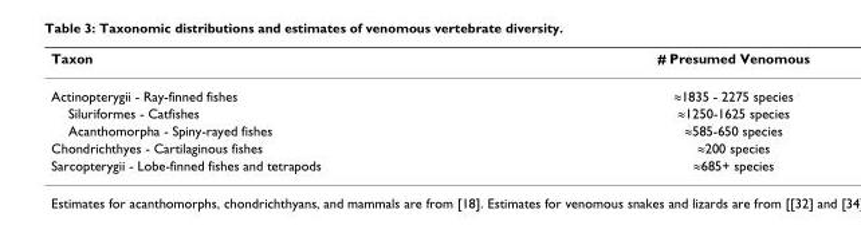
<table><thead><tr><td>Taxon</td><td># Presumed Venomous</td></tr></thead><tbody><tr><td>Actinopterygii - Ray-finned fishes</td><td>≈1835 - 2275 species</td></tr><tr><td>Siluriformes - Catfishes</td><td>≈1250-1625 species</td></tr><tr><td>Acanthomorpha - Spiny-rayed fishes</td><td>≈585-650 species</td></tr><tr><td>Chondrichthyes - Cartilaginous fishes</td><td>≈200 species</td></tr><tr><td>Sarcopterygii - Lobe-finned fishes and tetrapods</td><td>≈685+ species</td></tr></tbody></table>